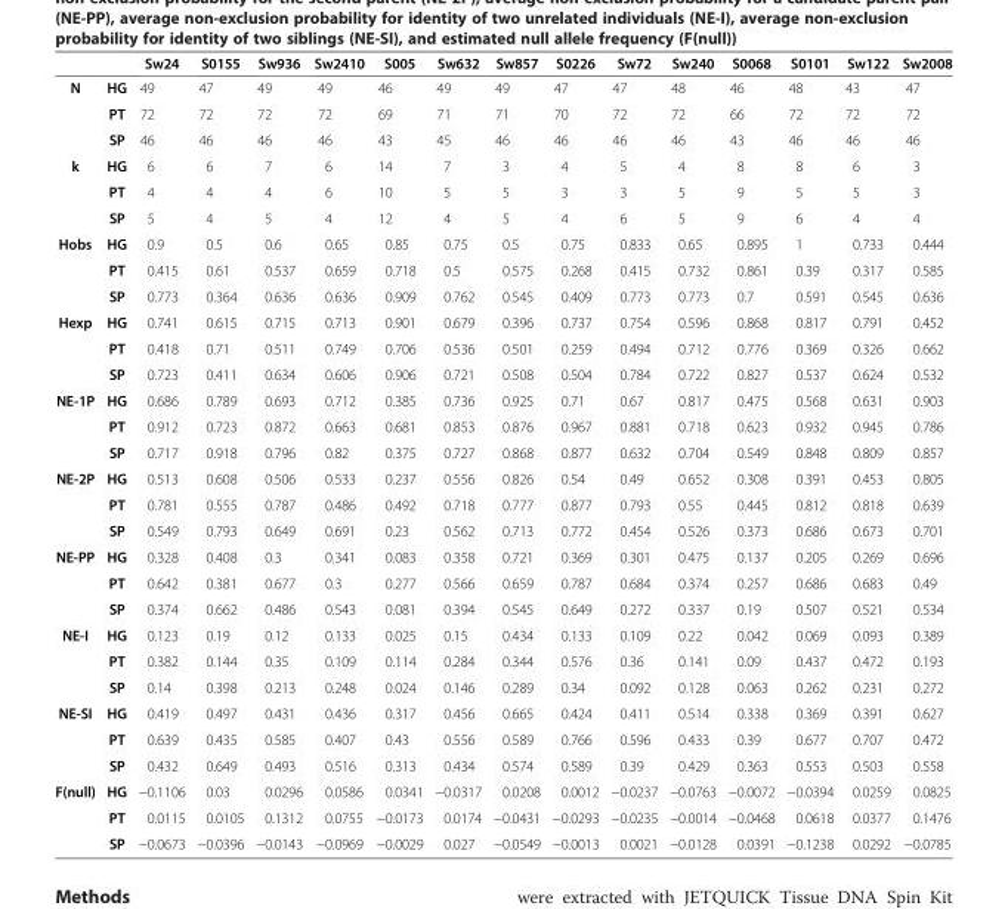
<table><thead><tr><td></td><td></td><td>Sw24</td><td>S0155</td><td>Sw936</td><td>Sw2410</td><td>S005</td><td>Sw632</td><td>Sw857</td><td>S0226</td><td>Sw72</td><td>Sw240</td><td>S0068</td><td>S0101</td><td>Sw122</td><td>Sw2008</td></tr></thead><tbody><tr><td rowspan="3">N</td><td>HG</td><td>49</td><td>47</td><td>49</td><td>49</td><td>46</td><td>49</td><td>49</td><td>47</td><td>47</td><td>48</td><td>46</td><td>48</td><td>43</td><td>47</td></tr><tr><td>PT</td><td>72</td><td>72</td><td>72</td><td>72</td><td>69</td><td>71</td><td>71</td><td>70</td><td>72</td><td>72</td><td>66</td><td>72</td><td>72</td><td>72</td></tr><tr><td>SP</td><td>46</td><td>46</td><td>46</td><td>46</td><td>43</td><td>45</td><td>46</td><td>46</td><td>46</td><td>46</td><td>43</td><td>46</td><td>46</td><td>46</td></tr><tr><td rowspan="3">k</td><td>HG</td><td>6</td><td>6</td><td>7</td><td>6</td><td>14</td><td>7</td><td>3</td><td>4</td><td>5</td><td>4</td><td>8</td><td>8</td><td>6</td><td>3</td></tr><tr><td>PT</td><td>4</td><td>4</td><td>4</td><td>6</td><td>10</td><td>5</td><td>5</td><td>3</td><td>3</td><td>5</td><td>9</td><td>5</td><td>5</td><td>3</td></tr><tr><td>SP</td><td>5</td><td>4</td><td>5</td><td>4</td><td>12</td><td>4</td><td>5</td><td>4</td><td>6</td><td>5</td><td>9</td><td>6</td><td>4</td><td>4</td></tr><tr><td rowspan="3">Hobs</td><td>HG</td><td>0.9</td><td>0.5</td><td>0.6</td><td>0.65</td><td>0.85</td><td>0.75</td><td>0.5</td><td>0.75</td><td>0.833</td><td>0.65</td><td>0.895</td><td>1</td><td>0.733</td><td>0.444</td></tr><tr><td>PT</td><td>0.415</td><td>0.61</td><td>0.537</td><td>0.659</td><td>0.718</td><td>0.5</td><td>0.575</td><td>0.268</td><td>0.415</td><td>0.732</td><td>0.861</td><td>0.39</td><td>0.317</td><td>0.585</td></tr><tr><td>SP</td><td>0.773</td><td>0.364</td><td>0.636</td><td>0.636</td><td>0.909</td><td>0.762</td><td>0.545</td><td>0.409</td><td>0.773</td><td>0.773</td><td>0.7</td><td>0.591</td><td>0.545</td><td>0.636</td></tr><tr><td rowspan="3">Hexp</td><td>HG</td><td>0.741</td><td>0.615</td><td>0.715</td><td>0.713</td><td>0.901</td><td>0.679</td><td>0.396</td><td>0.737</td><td>0.754</td><td>0.596</td><td>0.868</td><td>0.817</td><td>0.791</td><td>0.452</td></tr><tr><td>PT</td><td>0.418</td><td>0.71</td><td>0.511</td><td>0.749</td><td>0.706</td><td>0.536</td><td>0.501</td><td>0.259</td><td>0.494</td><td>0.712</td><td>0.776</td><td>0.369</td><td>0.326</td><td>0.662</td></tr><tr><td>SP</td><td>0.723</td><td>0.411</td><td>0.634</td><td>0.606</td><td>0.906</td><td>0.721</td><td>0.508</td><td>0.504</td><td>0.784</td><td>0.722</td><td>0.827</td><td>0.537</td><td>0.624</td><td>0.532</td></tr><tr><td rowspan="3">NE-1P</td><td>HG</td><td>0.686</td><td>0.789</td><td>0.693</td><td>0.712</td><td>0.385</td><td>0.736</td><td>0.925</td><td>0.71</td><td>0.67</td><td>0.817</td><td>0.475</td><td>0.568</td><td>0.631</td><td>0.903</td></tr><tr><td>PT</td><td>0.912</td><td>0.723</td><td>0.872</td><td>0.663</td><td>0.681</td><td>0.853</td><td>0.876</td><td>0.967</td><td>0.881</td><td>0.718</td><td>0.623</td><td>0.932</td><td>0.945</td><td>0.786</td></tr><tr><td>SP</td><td>0.717</td><td>0.918</td><td>0.796</td><td>0.82</td><td>0.375</td><td>0.727</td><td>0.868</td><td>0.877</td><td>0.632</td><td>0.704</td><td>0.549</td><td>0.848</td><td>0.809</td><td>0.857</td></tr><tr><td rowspan="3">NE-2P</td><td>HG</td><td>0.513</td><td>0.608</td><td>0.506</td><td>0.533</td><td>0.237</td><td>0.556</td><td>0.826</td><td>0.54</td><td>0.49</td><td>0.652</td><td>0.308</td><td>0.391</td><td>0.453</td><td>0.805</td></tr><tr><td>PT</td><td>0.781</td><td>0.555</td><td>0.787</td><td>0.486</td><td>0.492</td><td>0.718</td><td>0.777</td><td>0.877</td><td>0.793</td><td>0.55</td><td>0.445</td><td>0.812</td><td>0.818</td><td>0.639</td></tr><tr><td>SP</td><td>0.549</td><td>0.793</td><td>0.649</td><td>0.691</td><td>0.23</td><td>0.562</td><td>0.713</td><td>0.772</td><td>0.454</td><td>0.526</td><td>0.373</td><td>0.686</td><td>0.673</td><td>0.701</td></tr><tr><td rowspan="3">NE-PP</td><td>HG</td><td>0.328</td><td>0.408</td><td>0.3</td><td>0.341</td><td>0.083</td><td>0.358</td><td>0.721</td><td>0.369</td><td>0.301</td><td>0.475</td><td>0.137</td><td>0.205</td><td>0.269</td><td>0.696</td></tr><tr><td>PT</td><td>0.642</td><td>0.381</td><td>0.677</td><td>0.3</td><td>0.277</td><td>0.566</td><td>0.659</td><td>0.787</td><td>0.684</td><td>0.374</td><td>0.257</td><td>0.686</td><td>0.683</td><td>0.49</td></tr><tr><td>SP</td><td>0.374</td><td>0.662</td><td>0.486</td><td>0.543</td><td>0.081</td><td>0.394</td><td>0.545</td><td>0.649</td><td>0.272</td><td>0.337</td><td>0.19</td><td>0.507</td><td>0.521</td><td>0.534</td></tr><tr><td rowspan="3">NE-I</td><td>HG</td><td>0.123</td><td>0.19</td><td>0.12</td><td>0.133</td><td>0.025</td><td>0.15</td><td>0.434</td><td>0.133</td><td>0.109</td><td>0.22</td><td>0.042</td><td>0.069</td><td>0.093</td><td>0.389</td></tr><tr><td>PT</td><td>0.382</td><td>0.144</td><td>0.35</td><td>0.109</td><td>0.114</td><td>0.284</td><td>0.344</td><td>0.576</td><td>0.36</td><td>0.141</td><td>0.09</td><td>0.437</td><td>0.472</td><td>0.193</td></tr><tr><td>SP</td><td>0.14</td><td>0.398</td><td>0.213</td><td>0.248</td><td>0.024</td><td>0.146</td><td>0.289</td><td>0.34</td><td>0.092</td><td>0.128</td><td>0.063</td><td>0.262</td><td>0.231</td><td>0.272</td></tr><tr><td rowspan="3">NE-SI</td><td>HG</td><td>0.419</td><td>0.497</td><td>0.431</td><td>0.436</td><td>0.317</td><td>0.456</td><td>0.665</td><td>0.424</td><td>0.411</td><td>0.514</td><td>0.338</td><td>0.369</td><td>0.391</td><td>0.627</td></tr><tr><td>PT</td><td>0.639</td><td>0.435</td><td>0.585</td><td>0.407</td><td>0.43</td><td>0.556</td><td>0.589</td><td>0.766</td><td>0.596</td><td>0.433</td><td>0.39</td><td>0.677</td><td>0.707</td><td>0.472</td></tr><tr><td>SP</td><td>0.432</td><td>0.649</td><td>0.493</td><td>0.516</td><td>0.313</td><td>0.434</td><td>0.574</td><td>0.589</td><td>0.39</td><td>0.429</td><td>0.363</td><td>0.553</td><td>0.503</td><td>0.558</td></tr><tr><td rowspan="3">F(null)</td><td>HG</td><td>−0.1106</td><td>0.03</td><td>0.0296</td><td>0.0586</td><td>0.0341</td><td>−0.0317</td><td>0.0208</td><td>0.0012</td><td>−0.0237</td><td>−0.0763</td><td>−0.0072</td><td>−0.0394</td><td>0.0259</td><td>0.0825</td></tr><tr><td>PT</td><td>0.0115</td><td>0.0105</td><td>0.1312</td><td>0.0755</td><td>−0.0173</td><td>0.0174</td><td>−0.0431</td><td>−0.0293</td><td>−0.0235</td><td>−0.0014</td><td>−0.0468</td><td>0.0618</td><td>0.0377</td><td>0.1476</td></tr><tr><td>SP</td><td>−0.0673</td><td>−0.0396</td><td>−0.0143</td><td>−0.0969</td><td>−0.0029</td><td>0.027</td><td>−0.0549</td><td>−0.0013</td><td>0.0021</td><td>−0.0128</td><td>0.0391</td><td>−0.1238</td><td>0.0292</td><td>−0.0785</td></tr></tbody></table>